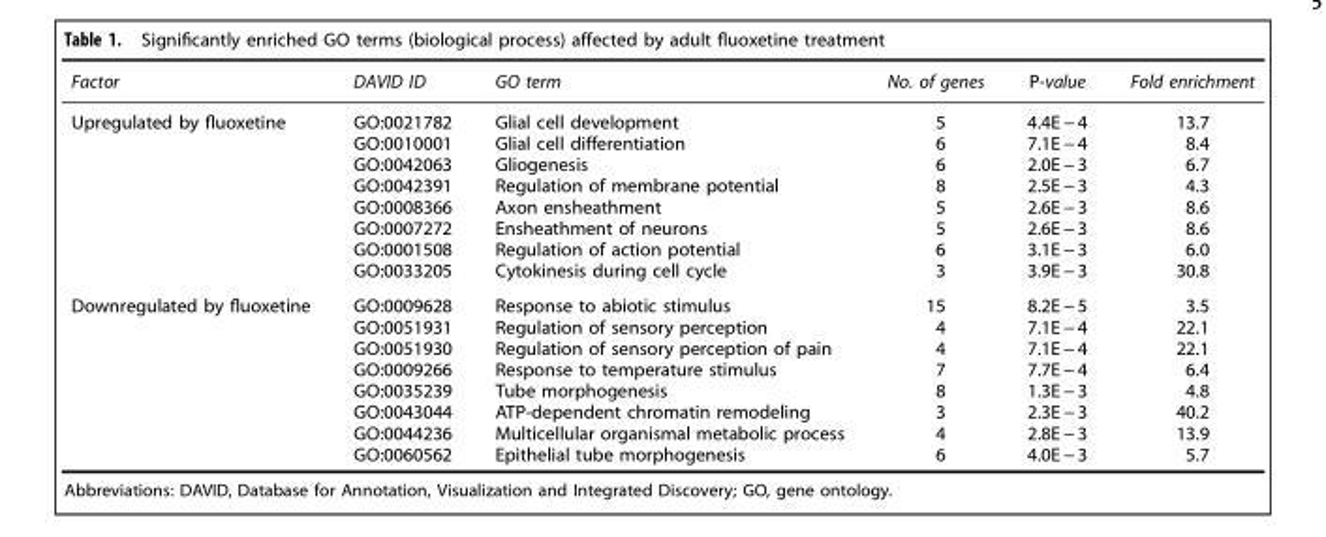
<table><thead><tr><td>Factor</td><td>DAVID ID</td><td>GO term</td><td>No. of genes</td><td>P-value</td><td>Fold enrichment</td></tr></thead><tbody><tr><td rowspan="8">Upregulated by fluoxetine</td><td>GO:0021782</td><td>Glial cell development</td><td>5</td><td>4.4E − 4</td><td>13.7</td></tr><tr><td>GO:0010001</td><td>Glial cell differentiation</td><td>6</td><td>7.1E − 4</td><td>8.4</td></tr><tr><td>GO:0042063</td><td>Gliogenesis</td><td>6</td><td>2.0E − 3</td><td>6.7</td></tr><tr><td>GO:0042391</td><td>Regulation of membrane potential</td><td>8</td><td>2.5E − 3</td><td>4.3</td></tr><tr><td>GO:0008366</td><td>Axon ensheathment</td><td>5</td><td>2.6E − 3</td><td>8.6</td></tr><tr><td>GO:0007272</td><td>Ensheathment of neurons</td><td>5</td><td>2.6E − 3</td><td>8.6</td></tr><tr><td>GO:0001508</td><td>Regulation of action potential</td><td>6</td><td>3.1E − 3</td><td>6.0</td></tr><tr><td>GO:0033205</td><td>Cytokinesis during cell cycle</td><td>3</td><td>3.9E − 3</td><td>30.8</td></tr><tr><td rowspan="8">Downregulated by fluoxetine</td><td>GO:0009628</td><td>Response to abiotic stimulus</td><td>15</td><td>8.2E − 5</td><td>3.5</td></tr><tr><td>GO:0051931</td><td>Regulation of sensory perception</td><td>4</td><td>7.1E − 4</td><td>22.1</td></tr><tr><td>GO:0051930</td><td>Regulation of sensory perception of pain</td><td>4</td><td>7.1E − 4</td><td>22.1</td></tr><tr><td>GO:0009266</td><td>Response to temperature stimulus</td><td>7</td><td>7.7E − 4</td><td>6.4</td></tr><tr><td>GO:0035239</td><td>Tube morphogenesis</td><td>8</td><td>1.3E − 3</td><td>4.8</td></tr><tr><td>GO:0043044</td><td>ATP-dependent chromatin remodeling</td><td>3</td><td>2.3E − 3</td><td>40.2</td></tr><tr><td>GO:0044236</td><td>Multicellular organismal metabolic process</td><td>4</td><td>2.8E − 3</td><td>13.9</td></tr><tr><td>GO:0060562</td><td>Epithelial tube morphogenesis</td><td>6</td><td>4.0E − 3</td><td>5.7</td></tr></tbody></table>